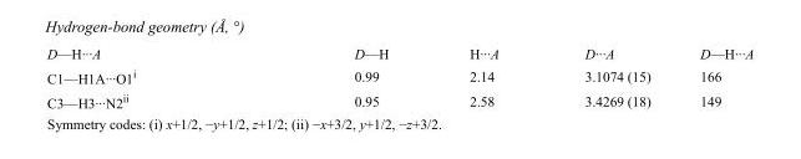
<table><tbody><tr><td>D—H···A</td><td>D—H</td><td>H···A</td><td>D···A</td><td>D—H···A</td></tr><tr><td>C1—H1A···O1<sup>i</sup></td><td>0.99</td><td>2.14</td><td>3.1074 (15)</td><td>166</td></tr><tr><td>C3—H3···N2<sup>ii</sup></td><td>0.95</td><td>2.58</td><td>3.4269 (18)</td><td>149</td></tr></tbody></table>